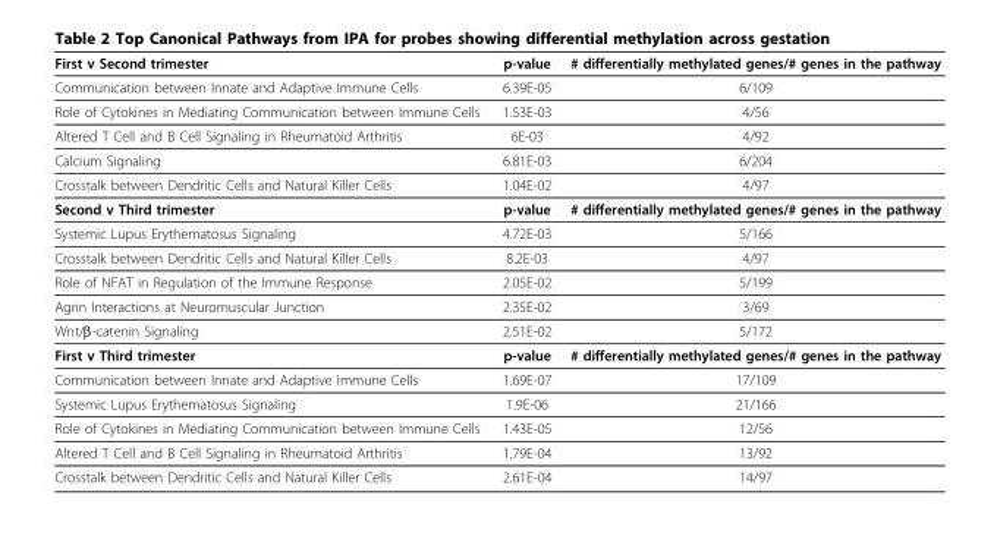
<table><thead><tr><td>First v Second trimester</td><td>p-value</td><td># differentially methylated genes/# genes in the pathway</td></tr></thead><tbody><tr><td>Communication between Innate and Adaptive Immune Cells</td><td>6.39E-05</td><td>6/109</td></tr><tr><td>Role of Cytokines in Mediating Communication between Immune Cells</td><td>1.53E-03</td><td>4/56</td></tr><tr><td>Altered T Cell and B Cell Signaling in Rheumatoid Arthritis</td><td>6E-03</td><td>4/92</td></tr><tr><td>Calcium Signaling</td><td>6.81E-03</td><td>6/204</td></tr><tr><td>Crosstalk between Dendritic Cells and Natural Killer Cells</td><td>1.04E-02</td><td>4/97</td></tr><tr><td>Second v Third trimester</td><td>p-value</td><td># differentially methylated genes/# genes in the pathway</td></tr><tr><td>Systemic Lupus Erythematosus Signaling</td><td>4.72E-03</td><td>5/166</td></tr><tr><td>Crosstalk between Dendritic Cells and Natural Killer Cells</td><td>8.2E-03</td><td>4/97</td></tr><tr><td>Role of NFAT in Regulation of the Immune Response</td><td>2.05E-02</td><td>5/199</td></tr><tr><td>Agrin Interactions at Neuromuscular Junction</td><td>2.35E-02</td><td>3/69</td></tr><tr><td>Wnt/β-catenin Signaling</td><td>2.51E-02</td><td>5/172</td></tr><tr><td>First v Third trimester</td><td>p-value</td><td># differentially methylated genes/# genes in the pathway</td></tr><tr><td>Communication between Innate and Adaptive Immune Cells</td><td>1.69E-07</td><td>17/109</td></tr><tr><td>Systemic Lupus Erythematosus Signaling</td><td>1.9E-06</td><td>21/166</td></tr><tr><td>Role of Cytokines in Mediating Communication between Immune Cells</td><td>1.43E-05</td><td>12/56</td></tr><tr><td>Altered T Cell and B Cell Signaling in Rheumatoid Arthritis</td><td>1.79E-04</td><td>13/92</td></tr><tr><td>Crosstalk between Dendritic Cells and Natural Killer Cells</td><td>2.61E-04</td><td>14/97</td></tr></tbody></table>